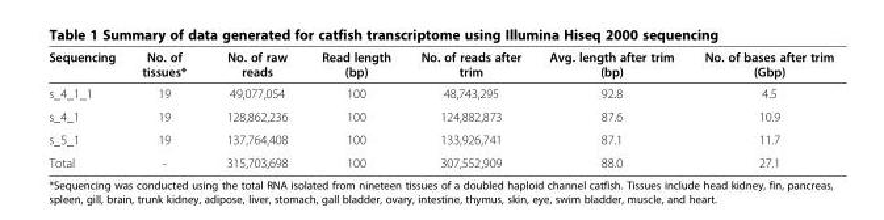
<table><thead><tr><td>Sequencing</td><td>No. of tissues*</td><td>No. of raw reads</td><td>Read length (bp)</td><td>No. of reads after trim</td><td>Avg. length after trim (bp)</td><td>No. of bases after trim (Gbp)</td></tr></thead><tbody><tr><td>s_4_1_1</td><td>19</td><td>49,077,054</td><td>100</td><td>48,743,295</td><td>92.8</td><td>4.5</td></tr><tr><td>s_4_1</td><td>19</td><td>128,862,236</td><td>100</td><td>124,882,873</td><td>87.6</td><td>10.9</td></tr><tr><td>s_5_1</td><td>19</td><td>137,764,408</td><td>100</td><td>133,926,741</td><td>87.1</td><td>11.7</td></tr><tr><td>Total</td><td>-</td><td>315,703,698</td><td>100</td><td>307,552,909</td><td>88.0</td><td>27.1</td></tr></tbody></table>